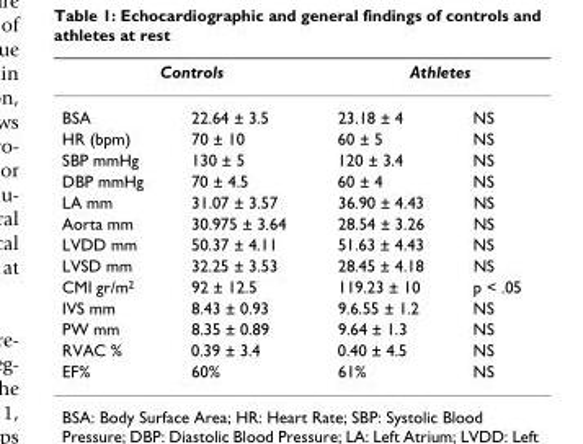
<table><thead><tr><td colspan="2">Controls</td><td colspan="2">Athletes</td></tr><tr><td>BSA</td><td>22.64 ± 3.5</td><td>23.18 ± 4</td><td>NS</td></tr></thead><tbody><tr><td>HR (bpm)</td><td>70 ± 10</td><td>60 ± 5</td><td>NS</td></tr><tr><td>SBP mmHg</td><td>130 ± 5</td><td>120 ± 3.4</td><td>NS</td></tr><tr><td>DBP mmHg</td><td>70 ± 4.5</td><td>60 ± 4</td><td>NS</td></tr><tr><td>LA mm</td><td>31.07 ± 3.57</td><td>36.90 ± 4.43</td><td>NS</td></tr><tr><td>Aorta mm</td><td>30.975 ± 3.64</td><td>28.54 ± 3.26</td><td>NS</td></tr><tr><td>LVDD mm</td><td>50.37 ± 4.11</td><td>51.63 ± 4.43</td><td>NS</td></tr><tr><td>LVSD mm</td><td>32.25 ± 3.53</td><td>28.45 ± 4.18</td><td>NS</td></tr><tr><td>CMI gr/m<sup>2</sup></td><td>92 ± 12.5</td><td>119.23 ± 10</td><td>p &lt; .05</td></tr><tr><td>IVS mm</td><td>8.43 ± 0.93</td><td>9.6.55 ± 1.2</td><td>NS</td></tr><tr><td>PW mm</td><td>8.35 ± 0.89</td><td>9.64 ± 1.3</td><td>NS</td></tr><tr><td>RVAC %</td><td>0.39 ± 3.4</td><td>0.40 ± 4.5</td><td>NS</td></tr><tr><td>EF%</td><td>60%</td><td>61%</td><td>NS</td></tr></tbody></table>